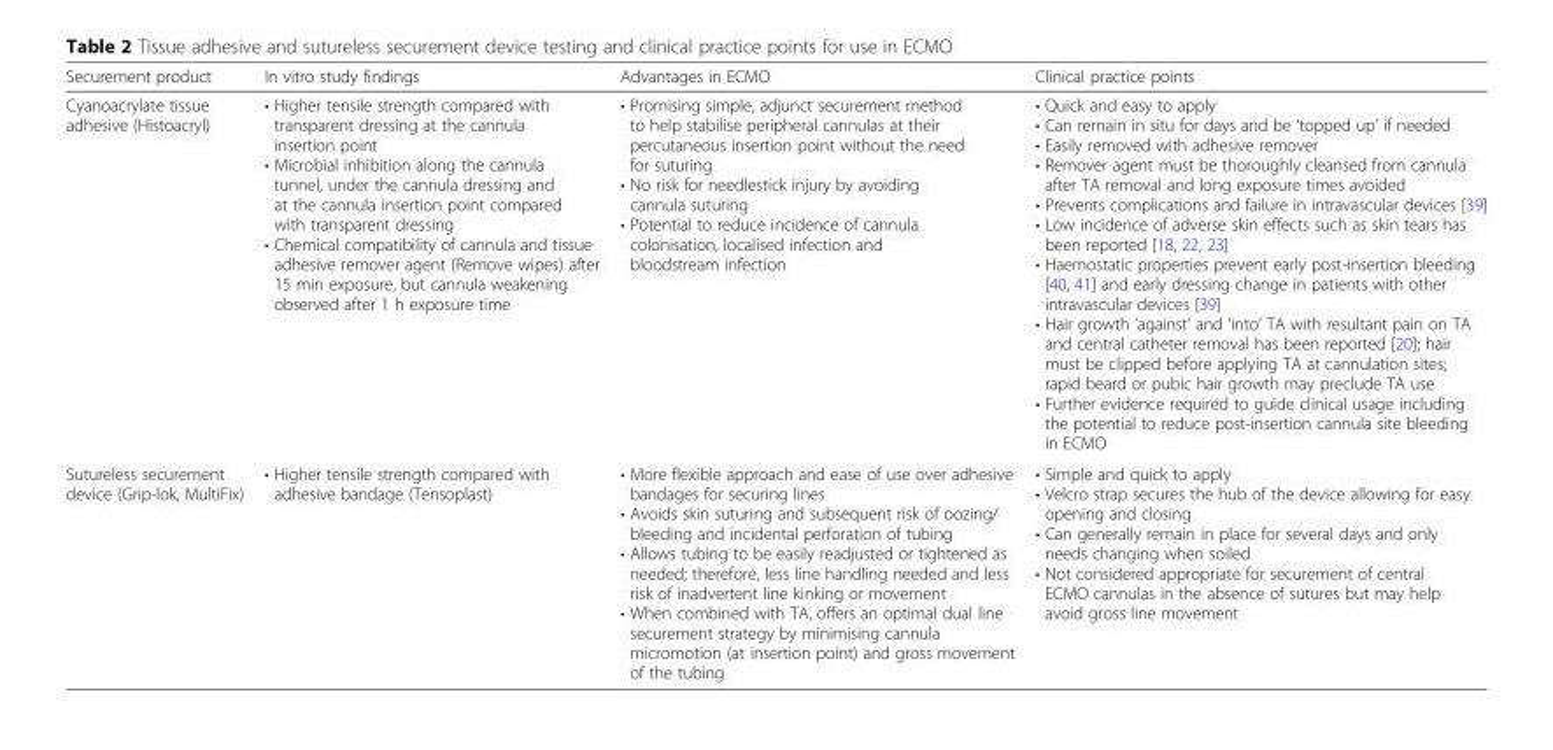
<table><thead><tr><td>Securement product</td><td>In vitro study findings</td><td>Advantages in ECMO</td><td>Clinical practice points</td></tr></thead><tbody><tr><td>Cyanoacrylate tissue adhesive (Histoacryl)</td><td>• Higher tensile strength compared with transparent dressing at the cannula insertion point • Microbial inhibition along the cannula tunnel, under the cannula dressing and at the cannula insertion point compared with transparent dressing • Chemical compatibility of cannula and tissue adhesive remover agent (Remove wipes) after 15 min exposure, but cannula weakening observed after 1 h exposure time</td><td>• Promising simple, adjunct securement method to help stabilise peripheral cannulas at their percutaneous insertion point without the need for suturing • No risk for needlestick injury by avoiding cannula suturing • Potential to reduce incidence of cannula colonisation, localised infection and bloodstream infection</td><td>• Quick and easy to apply • Can remain in situ for days and be ‘topped up’ if needed • Easily removed with adhesive remover • Remover agent must be thoroughly cleansed from cannula after TA removal and long exposure times avoided • Prevents complications and failure in intravascular devices [39] • Low incidence of adverse skin effects such as skin tears has been reported [18, 22, 23] • Haemostatic properties prevent early post-insertion bleeding [40, 41] and early dressing change in patients with other intravascular devices [39] • Hair growth ‘against’ and ‘into’ TA with resultant pain on TA and central catheter removal has been reported [20]; hair must be clipped before applying TA at cannulation sites; rapid beard or pubic hair growth may preclude TA use • Further evidence required to guide clinical usage including the potential to reduce post-insertion cannula site bleeding in ECMO</td></tr><tr><td>Sutureless securement device (Grip-lok, MultiFix)</td><td>• Higher tensile strength compared with adhesive bandage (Tensoplast)</td><td>• More flexible approach and ease of use over adhesive bandages for securing lines • Avoids skin suturing and subsequent risk of oozing/ bleeding and incidental perforation of tubing • Allows tubing to be easily readjusted or tightened as needed; therefore, less line handling needed and less risk of inadvertent line kinking or movement • When combined with TA, offers an optimal dual line securement strategy by minimising cannula micromotion (at insertion point) and gross movement of the tubing</td><td>• Simple and quick to apply • Velcro strap secures the hub of the device allowing for easy opening and closing • Can generally remain in place for several days and only needs changing when soiled • Not considered appropriate for securement of central ECMO cannulas in the absence of sutures but may help avoid gross line movement</td></tr></tbody></table>